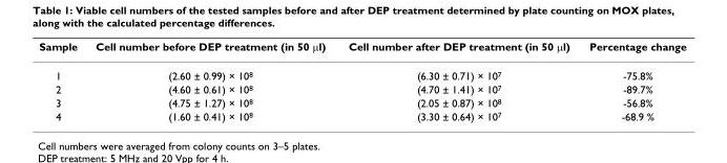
<table><thead><tr><td>Sample</td><td>Cell number before DEP treatment (in 50 μl)</td><td>Cell number after DEP treatment (in 50 μl)</td><td>Percentage change</td></tr></thead><tbody><tr><td>1</td><td>(2.60 ± 0.99) × 10<sup>8</sup></td><td>(6.30 ± 0.71) × 10<sup>7</sup></td><td>-75.8%</td></tr><tr><td>2</td><td>(4.60 ± 0.61) × 10<sup>8</sup></td><td>(4.70 ± 1.41) × 10<sup>7</sup></td><td>-89.7%</td></tr><tr><td>3</td><td>(4.75 ± 1.27) × 10<sup>8</sup></td><td>(2.05 ± 0.87) × 10<sup>8</sup></td><td>-56.8%</td></tr><tr><td>4</td><td>(1.60 ± 0.41) × 10<sup>8</sup></td><td>(3.30 ± 0.64) × 10<sup>7</sup></td><td>-68.9 %</td></tr></tbody></table>